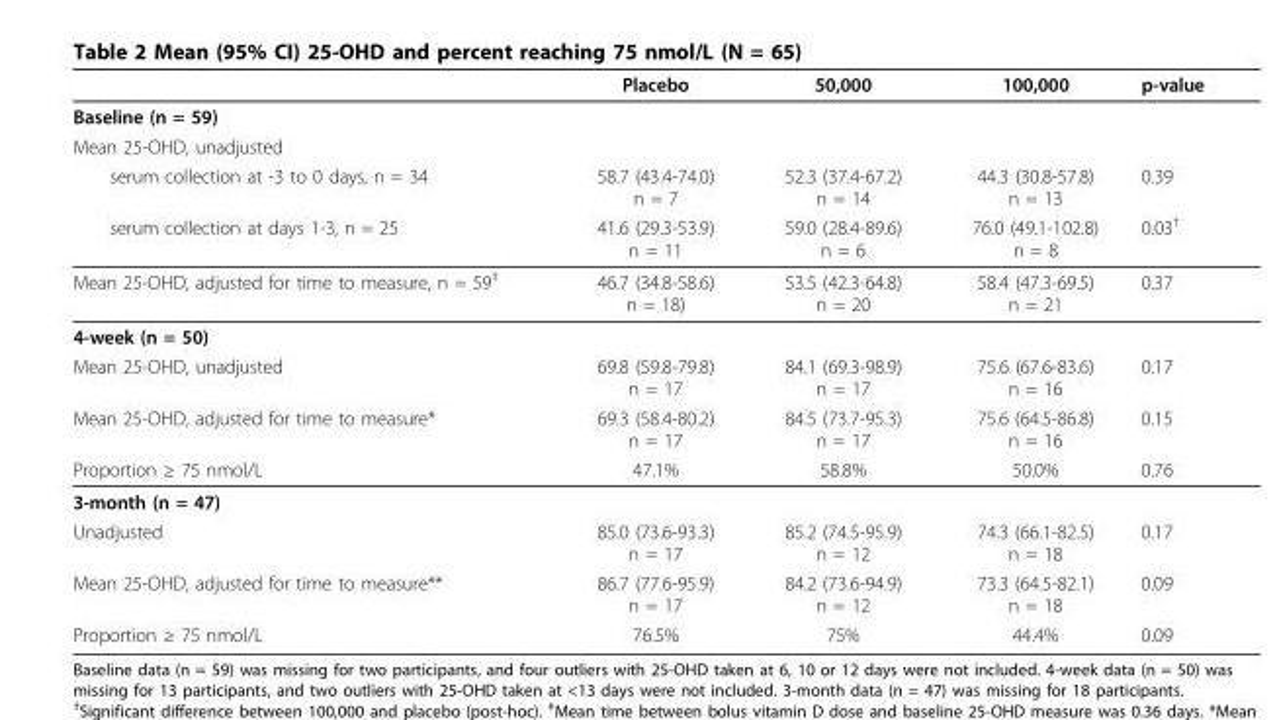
<table><thead><tr><td></td><td>Placebo</td><td>50,000</td><td>100,000</td><td>p-value</td></tr></thead><tbody><tr><td colspan="5">Baseline (n = 59)</td></tr><tr><td colspan="5">Mean 25-OHD, unadjusted</td></tr><tr><td>serum collection at -3 to 0 days, n = 34</td><td>58.7 (43.4-74.0) n = 7</td><td>52.3 (37.4-67.2) n = 14</td><td>44.3 (30.8-57.8) n = 13</td><td>0.39</td></tr><tr><td>serum collection at days 1-3, n = 25</td><td>41.6 (29.3-53.9) n = 11</td><td>59.0 (28.4-89.6) n = 6</td><td>76.0 (49.1-102.8) n = 8</td><td>0.03<sup>†</sup></td></tr><tr><td>Mean 25-OHD, adjusted for time to measure, n = 59<sup>‡</sup></td><td>46.7 (34.8-58.6) n = 18)</td><td>53.5 (42.3-64.8) n = 20</td><td>58.4 (47.3-69.5) n = 21</td><td>0.37</td></tr><tr><td colspan="5">4-week (n = 50)</td></tr><tr><td>Mean 25-OHD, unadjusted</td><td>69.8 (59.8-79.8) n = 17</td><td>84.1 (69.3-98.9) n = 17</td><td>75.6 (67.6-83.6) n = 16</td><td>0.17</td></tr><tr><td>Mean 25-OHD, adjusted for time to measure*</td><td>69.3 (58.4-80.2) n = 17</td><td>84.5 (73.7-95.3) n = 17</td><td>75.6 (64.5-86.8) n = 16</td><td>0.15</td></tr><tr><td>Proportion ≥ 75 nmol/L</td><td>47.1%</td><td>58.8%</td><td>50.0%</td><td>0.76</td></tr><tr><td colspan="5">3-month (n = 47)</td></tr><tr><td>Unadjusted</td><td>85.0 (73.6-93.3) n = 17</td><td>85.2 (74.5-95.9) n = 12</td><td>74.3 (66.1-82.5) n = 18</td><td>0.17</td></tr><tr><td>Mean 25-OHD, adjusted for time to measure**</td><td>86.7 (77.6-95.9) n = 17</td><td>84.2 (73.6-94.9) n = 12</td><td>73.3 (64.5-82.1) n = 18</td><td>0.09</td></tr><tr><td>Proportion ≥ 75 nmol/L</td><td>76.5%</td><td>75%</td><td>44.4%</td><td>0.09</td></tr></tbody></table>